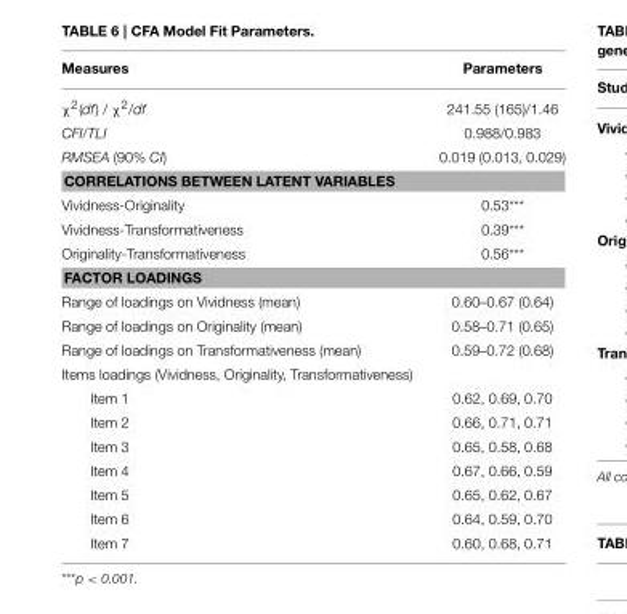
<table><thead><tr><td>Measures</td><td>Parameters</td></tr></thead><tbody><tr><td>χ<sup>2</sup>(df) / χ<sup>2</sup>/df</td><td>241.55 (165)/1.46</td></tr><tr><td>CFI/TLI</td><td>0.988/0.983</td></tr><tr><td>RMSEA (90% CI)</td><td>0.019 (0.013, 0.029)</td></tr><tr><td colspan="2">CORRELATIONS BETWEEN LATENT VARIABLES</td></tr><tr><td>Vividness-Originality</td><td>0.53***</td></tr><tr><td>Vividness-Transformativeness</td><td>0.39***</td></tr><tr><td>Originality-Transformativeness</td><td>0.56***</td></tr><tr><td colspan="2">FACTOR LOADINGS</td></tr><tr><td>Range of loadings on Vividness (mean)</td><td>0.60–0.67 (0.64)</td></tr><tr><td>Range of loadings on Originality (mean)</td><td>0.58–0.71 (0.65)</td></tr><tr><td>Range of loadings on Transformativeness (mean)</td><td>0.59–0.72 (0.68)</td></tr><tr><td colspan="2">Items loadings (Vividness, Originality, Transformativeness)</td></tr><tr><td>Item 1</td><td>0.62, 0.69, 0.70</td></tr><tr><td>Item 2</td><td>0.66, 0.71, 0.71</td></tr><tr><td>Item 3</td><td>0.65, 0.58, 0.68</td></tr><tr><td>Item 4</td><td>0.67, 0.66, 0.59</td></tr><tr><td>Item 5</td><td>0.65, 0.62, 0.67</td></tr><tr><td>Item 6</td><td>0.64, 0.59, 0.70</td></tr><tr><td>Item 7</td><td>0.60, 0.68, 0.71</td></tr></tbody></table>